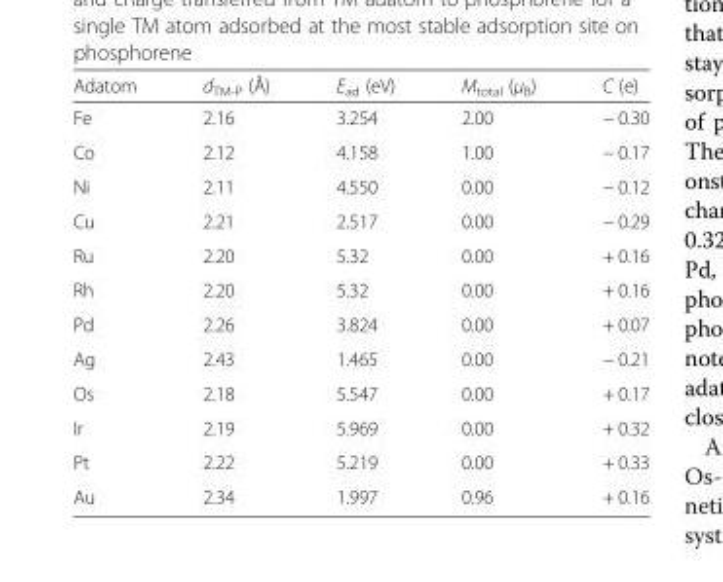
<table><thead><tr><td>Adatom</td><td>d<sub>TM-P</sub> (Å)</td><td>E<sub>ad</sub> (eV)</td><td>M<sub>total</sub> (μ<sub>B</sub>)</td><td>C (e)</td></tr></thead><tbody><tr><td>Fe</td><td>2.16</td><td>3.254</td><td>2.00</td><td>− 0.30</td></tr><tr><td>Co</td><td>2.12</td><td>4.158</td><td>1.00</td><td>− 0.17</td></tr><tr><td>Ni</td><td>2.11</td><td>4.550</td><td>0.00</td><td>− 0.12</td></tr><tr><td>Cu</td><td>2.21</td><td>2.517</td><td>0.00</td><td>− 0.29</td></tr><tr><td>Ru</td><td>2.20</td><td>5.32</td><td>0.00</td><td>+ 0.16</td></tr><tr><td>Rh</td><td>2.20</td><td>5.32</td><td>0.00</td><td>+ 0.16</td></tr><tr><td>Pd</td><td>2.26</td><td>3.824</td><td>0.00</td><td>+ 0.07</td></tr><tr><td>Ag</td><td>2.43</td><td>1.465</td><td>0.00</td><td>− 0.21</td></tr><tr><td>Os</td><td>2.18</td><td>5.547</td><td>0.00</td><td>+ 0.17</td></tr><tr><td>Ir</td><td>2.19</td><td>5.969</td><td>0.00</td><td>+ 0.32</td></tr><tr><td>Pt</td><td>2.22</td><td>5.219</td><td>0.00</td><td>+ 0.33</td></tr><tr><td>Au</td><td>2.34</td><td>1.997</td><td>0.96</td><td>+ 0.16</td></tr></tbody></table>